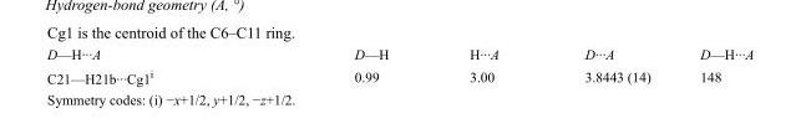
<table><tbody><tr><td>D—H···A</td><td>D—H</td><td>H···A</td><td>D···A</td><td>D—H···A</td></tr><tr><td>C21—H21b···Cg1<sup>i</sup></td><td>0.99</td><td>3.00</td><td>3.8443 (14)</td><td>148</td></tr></tbody></table>